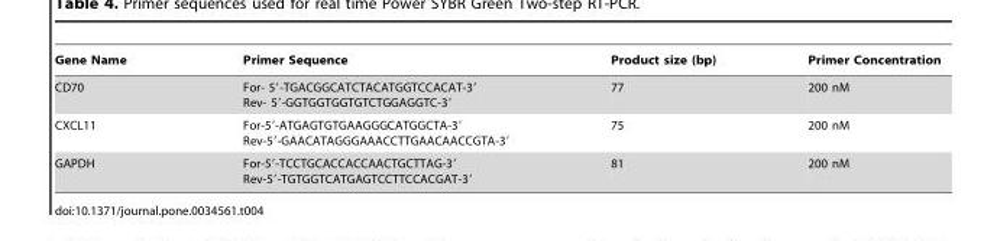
<table><thead><tr><td>Gene Name</td><td>Primer Sequence</td><td>Product size (bp)</td><td>Primer Concentration</td></tr></thead><tbody><tr><td>CD70</td><td>For- 5′-TGACGGCATCTACATGGTCCACAT-3′ Rev- 5′-GGTGGTGGTGTCTGGAGGTC-3′</td><td>77</td><td>200 nM</td></tr><tr><td>CXCL11</td><td>For-5′-ATGAGTGTGAAGGGCATGGCTA-3′ Rev-5′-GAACATAGGGAAACCTTGAACAACCGTA-3′</td><td>75</td><td>200 nM</td></tr><tr><td>GAPDH</td><td>For-5′-TCCTGCACCACCAACTGCTTAG-3′ Rev-5′-TGTGGTCATGAGTCCTTCCACGAT-3′</td><td>81</td><td>200 nM</td></tr></tbody></table>